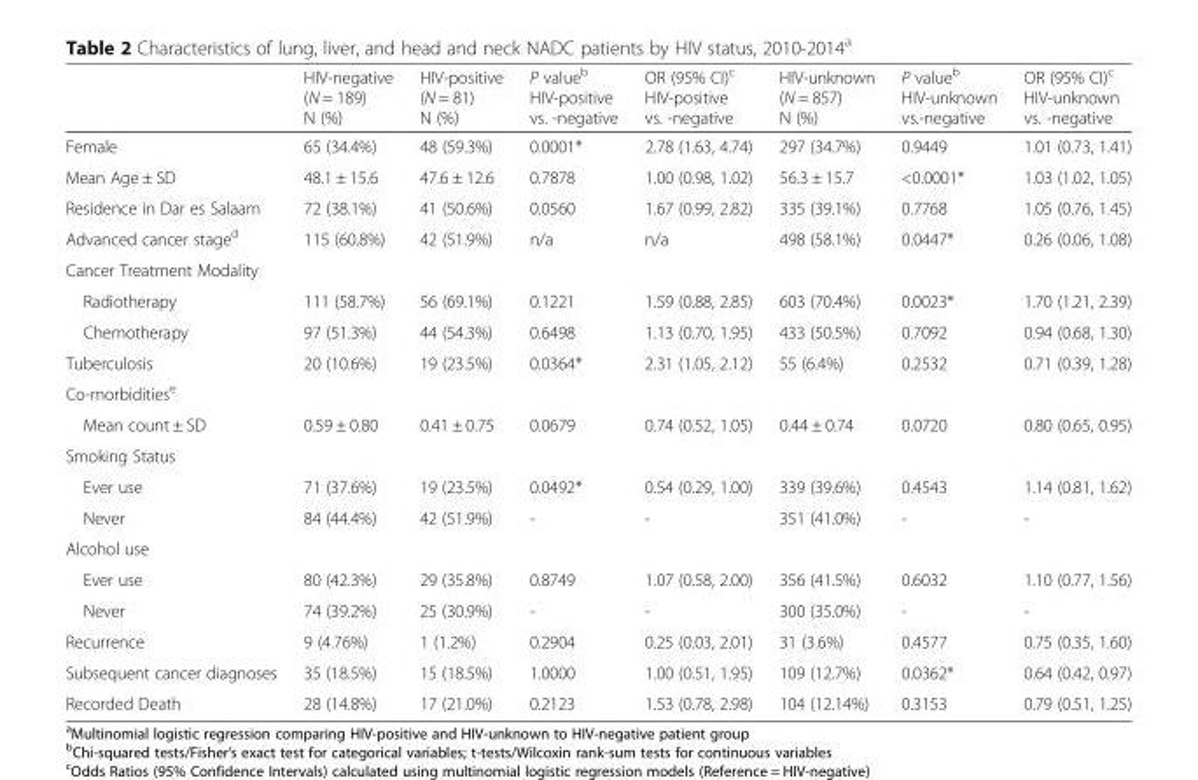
<table><thead><tr><td></td><td>HIV-negative (N = 189) N (%)</td><td>HIV-positive (N = 81) N (%)</td><td>P value<sup>b</sup> HIV-positive vs. -negative</td><td>OR (95% CI)<sup>c</sup> HIV-positive vs. -negative</td><td>HIV-unknown (N = 857) N (%)</td><td>P value<sup>b</sup> HIV-unknown vs.-negative</td><td>OR (95% CI)<sup>c</sup> HIV-unknown vs. -negative</td></tr></thead><tbody><tr><td>Female</td><td>65 (34.4%)</td><td>48 (59.3%)</td><td>0.0001*</td><td>2.78 (1.63, 4.74)</td><td>297 (34.7%)</td><td>0.9449</td><td>1.01 (0.73, 1.41)</td></tr><tr><td>Mean Age ± SD</td><td>48.1 ± 15.6</td><td>47.6 ± 12.6</td><td>0.7878</td><td>1.00 (0.98, 1.02)</td><td>56.3 ± 15.7</td><td>&lt;0.0001*</td><td>1.03 (1.02, 1.05)</td></tr><tr><td>Residence in Dar es Salaam</td><td>72 (38.1%)</td><td>41 (50.6%)</td><td>0.0560</td><td>1.67 (0.99, 2.82)</td><td>335 (39.1%)</td><td>0.7768</td><td>1.05 (0.76, 1.45)</td></tr><tr><td>Advanced cancer stage<sup>d</sup></td><td>115 (60.8%)</td><td>42 (51.9%)</td><td>n/a</td><td>n/a</td><td>498 (58.1%)</td><td>0.0447*</td><td>0.26 (0.06, 1.08)</td></tr><tr><td colspan="8">Cancer Treatment Modality</td></tr><tr><td>Radiotherapy</td><td>111 (58.7%)</td><td>56 (69.1%)</td><td>0.1221</td><td>1.59 (0.88, 2.85)</td><td>603 (70.4%)</td><td>0.0023*</td><td>1.70 (1.21, 2.39)</td></tr><tr><td>Chemotherapy</td><td>97 (51.3%)</td><td>44 (54.3%)</td><td>0.6498</td><td>1.13 (0.70, 1.95)</td><td>433 (50.5%)</td><td>0.7092</td><td>0.94 (0.68, 1.30)</td></tr><tr><td>Tuberculosis</td><td>20 (10.6%)</td><td>19 (23.5%)</td><td>0.0364*</td><td>2.31 (1.05, 2.12)</td><td>55 (6.4%)</td><td>0.2532</td><td>0.71 (0.39, 1.28)</td></tr><tr><td colspan="8">Co-morbidities<sup>e</sup></td></tr><tr><td>Mean count ± SD</td><td>0.59 ± 0.80</td><td>0.41 ± 0.75</td><td>0.0679</td><td>0.74 (0.52, 1.05)</td><td>0.44 ± 0.74</td><td>0.0720</td><td>0.80 (0.65, 0.95)</td></tr><tr><td colspan="8">Smoking Status</td></tr><tr><td>Ever use</td><td>71 (37.6%)</td><td>19 (23.5%)</td><td>0.0492*</td><td>0.54 (0.29, 1.00)</td><td>339 (39.6%)</td><td>0.4543</td><td>1.14 (0.81, 1.62)</td></tr><tr><td>Never</td><td>84 (44.4%)</td><td>42 (51.9%)</td><td>-</td><td>-</td><td>351 (41.0%)</td><td>-</td><td>-</td></tr><tr><td colspan="8">Alcohol use</td></tr><tr><td>Ever use</td><td>80 (42.3%)</td><td>29 (35.8%)</td><td>0.8749</td><td>1.07 (0.58, 2.00)</td><td>356 (41.5%)</td><td>0.6032</td><td>1.10 (0.77, 1.56)</td></tr><tr><td>Never</td><td>74 (39.2%)</td><td>25 (30.9%)</td><td>-</td><td>-</td><td>300 (35.0%)</td><td>-</td><td>-</td></tr><tr><td>Recurrence</td><td>9 (4.76%)</td><td>1 (1.2%)</td><td>0.2904</td><td>0.25 (0.03, 2.01)</td><td>31 (3.6%)</td><td>0.4577</td><td>0.75 (0.35, 1.60)</td></tr><tr><td>Subsequent cancer diagnoses</td><td>35 (18.5%)</td><td>15 (18.5%)</td><td>1.0000</td><td>1.00 (0.51, 1.95)</td><td>109 (12.7%)</td><td>0.0362*</td><td>0.64 (0.42, 0.97)</td></tr><tr><td>Recorded Death</td><td>28 (14.8%)</td><td>17 (21.0%)</td><td>0.2123</td><td>1.53 (0.78, 2.98)</td><td>104 (12.14%)</td><td>0.3153</td><td>0.79 (0.51, 1.25)</td></tr></tbody></table>